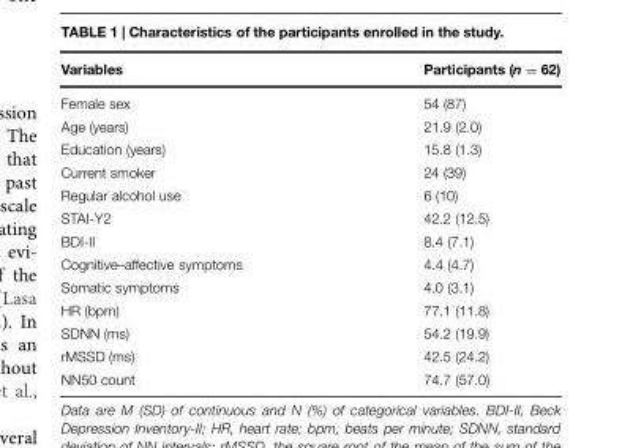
<table><thead><tr><td>Variables</td><td>Participants (n = 62)</td></tr></thead><tbody><tr><td>Female sex</td><td>54 (87)</td></tr><tr><td>Age (years)</td><td>21.9 (2.0)</td></tr><tr><td>Education (years)</td><td>15.8 (1.3)</td></tr><tr><td>Current smoker</td><td>24 (39)</td></tr><tr><td>Regular alcohol use</td><td>6 (10)</td></tr><tr><td>STAI-Y2</td><td>42.2 (12.5)</td></tr><tr><td>BDI-II</td><td>8.4 (7.1)</td></tr><tr><td>Cognitive–affective symptoms</td><td>4.4 (4.7)</td></tr><tr><td>Somatic symptoms</td><td>4.0 (3.1)</td></tr><tr><td>HR (bpm)</td><td>77.1 (11.8)</td></tr><tr><td>SDNN (ms)</td><td>54.2 (19.9)</td></tr><tr><td>rMSSD (ms)</td><td>42.5 (24.2)</td></tr><tr><td>NN50 count</td><td>74.7 (57.0)</td></tr></tbody></table>